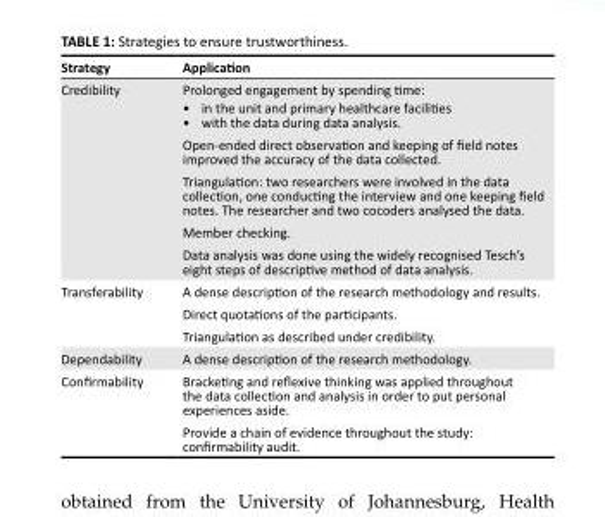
<table><thead><tr><td>Strategy</td><td>Application</td></tr></thead><tbody><tr><td rowspan="5">Credibility</td><td>Prolonged engagement by spending time: • in the unit and primary healthcare facilities • with the data during data analysis.</td></tr><tr><td>Open-ended direct observation and keeping of field notes improved the accuracy of the data collected.</td></tr><tr><td>Triangulation: two researchers were involved in the data collection, one conducting the interview and one keeping field notes. The researcher and two cocoders analysed the data.</td></tr><tr><td>Member checking.</td></tr><tr><td>Data analysis was done using the widely recognised Tesch’s eight steps of descriptive method of data analysis.</td></tr><tr><td rowspan="3">Transferability</td><td>A dense description of the research methodology and results.</td></tr><tr><td>Direct quotations of the participants.</td></tr><tr><td>Triangulation as described under credibility.</td></tr><tr><td>Dependability</td><td>A dense description of the research methodology.</td></tr><tr><td rowspan="2">Confirmability</td><td>Bracketing and reflexive thinking was applied throughout the data collection and analysis in order to put personal experiences aside.</td></tr><tr><td>Provide a chain of evidence throughout the study: confirmability audit.</td></tr></tbody></table>